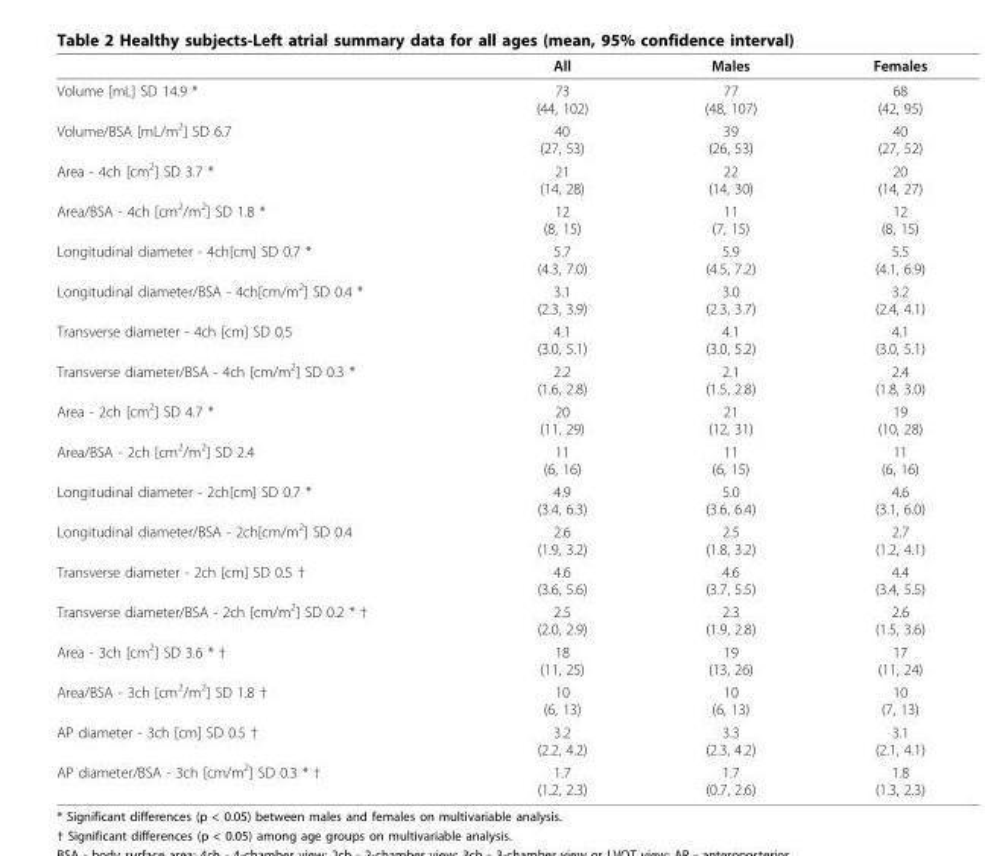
<table><thead><tr><td></td><td>All</td><td>Males</td><td>Females</td></tr></thead><tbody><tr><td>Volume [mL] SD 14.9 *</td><td>73 (44, 102)</td><td>77 (48, 107)</td><td>68 (42, 95)</td></tr><tr><td>Volume/BSA [mL/m<sup>2</sup>] SD 6.7</td><td>40 (27, 53)</td><td>39 (26, 53)</td><td>40 (27, 52)</td></tr><tr><td>Area - 4ch [cm<sup>2</sup>] SD 3.7 *</td><td>21 (14, 28)</td><td>22 (14, 30)</td><td>20 (14, 27)</td></tr><tr><td>Area/BSA - 4ch [cm<sup>2</sup>/m<sup>2</sup>] SD 1.8 *</td><td>12 (8, 15)</td><td>11 (7, 15)</td><td>12 (8, 15)</td></tr><tr><td>Longitudinal diameter - 4ch[cm] SD 0.7 *</td><td>5.7 (4.3, 7.0)</td><td>5.9 (4.5, 7.2)</td><td>5.5 (4.1, 6.9)</td></tr><tr><td>Longitudinal diameter/BSA - 4ch[cm/m<sup>2</sup>] SD 0.4 *</td><td>3.1 (2.3, 3.9)</td><td>3.0 (2.3, 3.7)</td><td>3.2 (2.4, 4.1)</td></tr><tr><td>Transverse diameter - 4ch [cm] SD 0.5</td><td>4.1 (3.0, 5.1)</td><td>4.1 (3.0, 5.2)</td><td>4.1 (3.0, 5.1)</td></tr><tr><td>Transverse diameter/BSA - 4ch [cm/m<sup>2</sup>] SD 0.3 *</td><td>2.2 (1.6, 2.8)</td><td>2.1 (1.5, 2.8)</td><td>2.4 (1.8, 3.0)</td></tr><tr><td>Area - 2ch [cm<sup>2</sup>] SD 4.7 *</td><td>20 (11, 29)</td><td>21 (12, 31)</td><td>19 (10, 28)</td></tr><tr><td>Area/BSA - 2ch [cm<sup>2</sup>/m<sup>2</sup>] SD 2.4</td><td>11 (6, 16)</td><td>11 (6, 15)</td><td>11 (6, 16)</td></tr><tr><td>Longitudinal diameter - 2ch[cm] SD 0.7 *</td><td>4.9 (3.4, 6.3)</td><td>5.0 (3.6, 6.4)</td><td>4.6 (3.1, 6.0)</td></tr><tr><td>Longitudinal diameter/BSA - 2ch[cm/m<sup>2</sup>] SD 0.4</td><td>2.6 (1.9, 3.2)</td><td>2.5 (1.8, 3.2)</td><td>2.7 (1.2, 4.1)</td></tr><tr><td>Transverse diameter - 2ch [cm] SD 0.5 †</td><td>4.6 (3.6, 5.6)</td><td>4.6 (3.7, 5.5)</td><td>4.4 (3.4, 5.5)</td></tr><tr><td>Transverse diameter/BSA - 2ch [cm/m<sup>2</sup>] SD 0.2 * †</td><td>2.5 (2.0, 2.9)</td><td>2.3 (1.9, 2.8)</td><td>2.6 (1.5, 3.6)</td></tr><tr><td>Area - 3ch [cm<sup>2</sup>] SD 3.6 * †</td><td>18 (11, 25)</td><td>19 (13, 26)</td><td>17 (11, 24)</td></tr><tr><td>Area/BSA - 3ch [cm<sup>2</sup>/m<sup>2</sup>] SD 1.8 †</td><td>10 (6, 13)</td><td>10 (6, 13)</td><td>10 (7, 13)</td></tr><tr><td>AP diameter - 3ch [cm] SD 0.5 †</td><td>3.2 (2.2, 4.2)</td><td>3.3 (2.3, 4.2)</td><td>3.1 (2.1, 4.1)</td></tr><tr><td>AP diameter/BSA - 3ch [cm/m<sup>2</sup>] SD 0.3 * †</td><td>1.7 (1.2, 2.3)</td><td>1.7 (0.7, 2.6)</td><td>1.8 (1.3, 2.3)</td></tr></tbody></table>